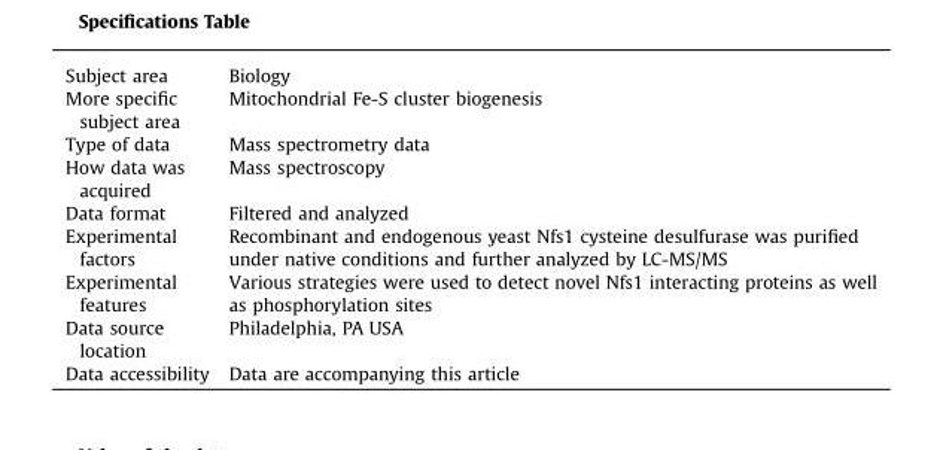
<table><tbody><tr><td>Subject area</td><td>Biology</td></tr><tr><td>More specific subject area</td><td>Mitochondrial Fe-S cluster biogenesis</td></tr><tr><td>Type of data</td><td>Mass spectrometry data</td></tr><tr><td>How data was acquired</td><td>Mass spectroscopy</td></tr><tr><td>Data format</td><td>Filtered and analyzed</td></tr><tr><td>Experimental factors</td><td>Recombinant and endogenous yeast Nfs1 cysteine desulfurase was purified under native conditions and further analyzed by LC-MS/MS</td></tr><tr><td>Experimental features</td><td>Various strategies were used to detect novel Nfs1 interacting proteins as well as phosphorylation sites</td></tr><tr><td>Data source location</td><td>Philadelphia, PA USA</td></tr><tr><td>Data accessibility</td><td>Data are accompanying this article</td></tr></tbody></table>